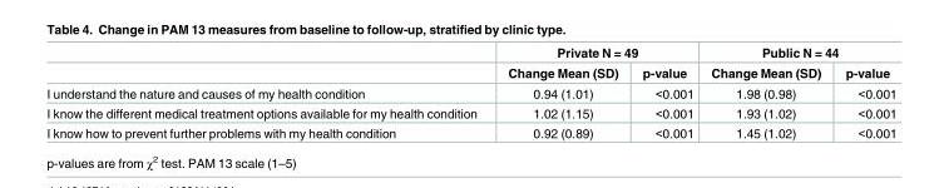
<table><thead><tr><td rowspan="2"></td><td colspan="2">Private N = 49</td><td colspan="2">Public N = 44</td></tr><tr><td>Change Mean (SD)</td><td>p-value</td><td>Change Mean (SD)</td><td>p-value</td></tr></thead><tbody><tr><td>I understand the nature and causes of my health condition</td><td>0.94 (1.01)</td><td>&lt;0.001</td><td>1.98 (0.98)</td><td>&lt;0.001</td></tr><tr><td>I know the different medical treatment options available for my health condition</td><td>1.02 (1.15)</td><td>&lt;0.001</td><td>1.93 (1.02)</td><td>&lt;0.001</td></tr><tr><td>I know how to prevent further problems with my health condition</td><td>0.92 (0.89)</td><td>&lt;0.001</td><td>1.45 (1.02)</td><td>&lt;0.001</td></tr></tbody></table>